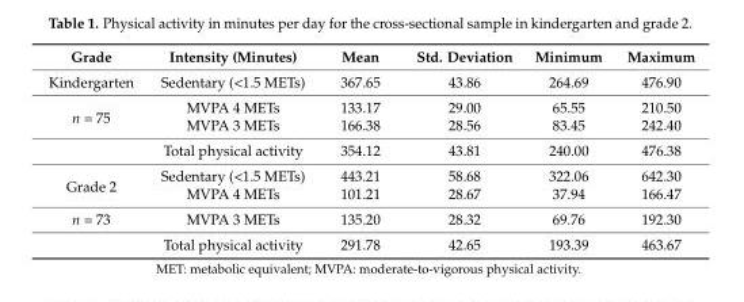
<table><thead><tr><td>Grade</td><td>Intensity (Minutes)</td><td>Mean</td><td>Std. Deviation</td><td>Minimum</td><td>Maximum</td></tr></thead><tbody><tr><td>Kindergarten</td><td>Sedentary (&lt;1.5 METs)</td><td>367.65</td><td>43.86</td><td>264.69</td><td>476.90</td></tr><tr><td rowspan="3">n = 75</td><td>MVPA 4 METs</td><td>133.17</td><td>29.00</td><td>65.55</td><td>210.50</td></tr><tr><td>MVPA 3 METs</td><td>166.38</td><td>28.56</td><td>83.45</td><td>242.40</td></tr><tr><td>Total physical activity</td><td>354.12</td><td>43.81</td><td>240.00</td><td>476.38</td></tr><tr><td rowspan="2">Grade 2</td><td>Sedentary (&lt;1.5 METs)</td><td>443.21</td><td>58.68</td><td>322.06</td><td>642.30</td></tr><tr><td>MVPA 4 METs</td><td>101.21</td><td>28.67</td><td>37.94</td><td>166.47</td></tr><tr><td rowspan="2">n = 73</td><td>MVPA 3 METs</td><td>135.20</td><td>28.32</td><td>69.76</td><td>192.30</td></tr><tr><td>Total physical activity</td><td>291.78</td><td>42.65</td><td>193.39</td><td>463.67</td></tr></tbody></table>